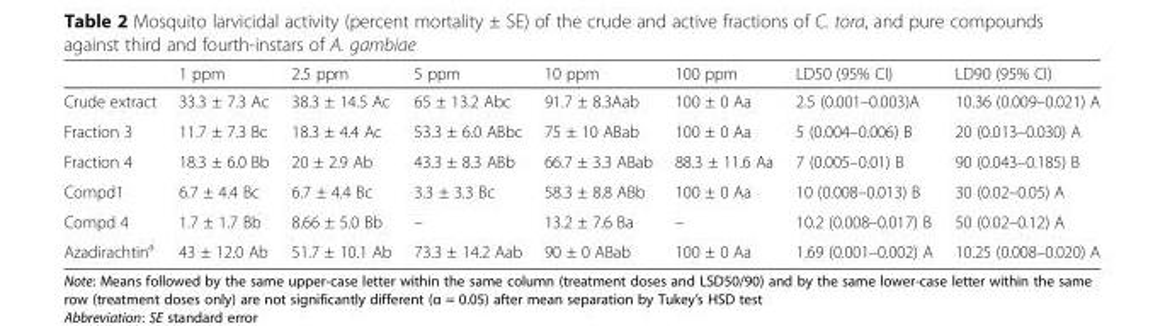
<table><thead><tr><td></td><td>1 ppm</td><td>2.5 ppm</td><td>5 ppm</td><td>10 ppm</td><td>100 ppm</td><td>LD50 (95% CI)</td><td>LD90 (95% CI)</td></tr></thead><tbody><tr><td>Crude extract</td><td>33.3 ± 7.3 Ac</td><td>38.3 ± 14.5 Ac</td><td>65 ± 13.2 Abc</td><td>91.7 ± 8.3Aab</td><td>100 ± 0 Aa</td><td>2.5 (0.001–0.003)A</td><td>10.36 (0.009–0.021) A</td></tr><tr><td>Fraction 3</td><td>11.7 ± 7.3 Bc</td><td>18.3 ± 4.4 Ac</td><td>53.3 ± 6.0 ABbc</td><td>75 ± 10 ABab</td><td>100 ± 0 Aa</td><td>5 (0.004–0.006) B</td><td>20 (0.013–0.030) A</td></tr><tr><td>Fraction 4</td><td>18.3 ± 6.0 Bb</td><td>20 ± 2.9 Ab</td><td>43.3 ± 8.3 ABb</td><td>66.7 ± 3.3 ABab</td><td>88.3 ± 11.6 Aa</td><td>7 (0.005–0.01) B</td><td>90 (0.043–0.185) B</td></tr><tr><td>Compd1</td><td>6.7 ± 4.4 Bc</td><td>6.7 ± 4.4 Bc</td><td>3.3 ± 3.3 Bc</td><td>58.3 ± 8.8 ABb</td><td>100 ± 0 Aa</td><td>10 (0.008–0.013) B</td><td>30 (0.02–0.05) A</td></tr><tr><td>Compd 4</td><td>1.7 ± 1.7 Bb</td><td>8.66 ± 5.0 Bb</td><td>–</td><td>13.2 ± 7.6 Ba</td><td>–</td><td>10.2 (0.008–0.017) B</td><td>50 (0.02–0.12) A</td></tr><tr><td>Azadirachtin<sup>a</sup></td><td>43 ± 12.0 Ab</td><td>51.7 ± 10.1 Ab</td><td>73.3 ± 14.2 Aab</td><td>90 ± 0 ABab</td><td>100 ± 0 Aa</td><td>1.69 (0.001–0.002) A</td><td>10.25 (0.008–0.020) A</td></tr></tbody></table>